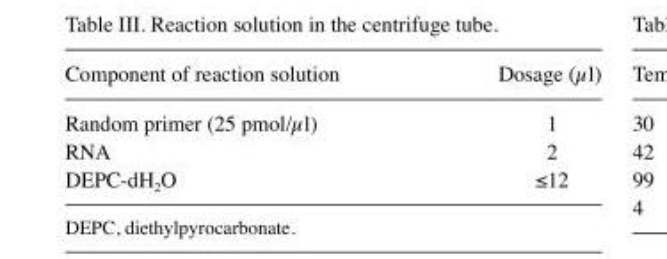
<table><thead><tr><td>Component of reaction solution</td><td>Dosage (µl)</td></tr></thead><tbody><tr><td>Random primer (25 pmol/µl)</td><td>1</td></tr><tr><td>RNA</td><td>2</td></tr><tr><td>DEPC-dH<sub>2</sub>O</td><td>≤12</td></tr></tbody></table>